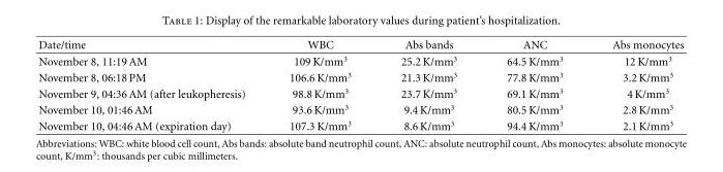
<table><thead><tr><td>Date/time</td><td>WBC</td><td>Abs bands</td><td>ANC</td><td>Abs monocytes</td></tr></thead><tbody><tr><td>November 8, 11:19 AM</td><td>109 K/mm<sup>3</sup></td><td>25.2 K/mm<sup>3</sup></td><td>64.5 K/mm<sup>3</sup></td><td>12 K/mm<sup>3</sup></td></tr><tr><td>November 8, 06:18 PM</td><td>106.6 K/mm<sup>3</sup></td><td>21.3 K/mm<sup>3</sup></td><td>77.8 K/mm<sup>3</sup></td><td>3.2 K/mm<sup>3</sup></td></tr><tr><td>November 9, 04:36 AM (after leukopheresis)</td><td>98.8 K/mm<sup>3</sup></td><td>23.7 K/mm<sup>3</sup></td><td>69.1 K/mm<sup>3</sup></td><td>4 K/mm<sup>3</sup></td></tr><tr><td>November 10, 01:46 AM</td><td>93.6 K/mm<sup>3</sup></td><td>9.4 K/mm<sup>3</sup></td><td>80.5 K/mm<sup>3</sup></td><td>2.8 K/mm<sup>3</sup></td></tr><tr><td>November 10, 04:46 AM (expiration day)</td><td>107.3 K/mm<sup>3</sup></td><td>8.6 K/mm<sup>3</sup></td><td>94.4 K/mm<sup>3</sup></td><td>2.1 K/mm<sup>3</sup></td></tr></tbody></table>